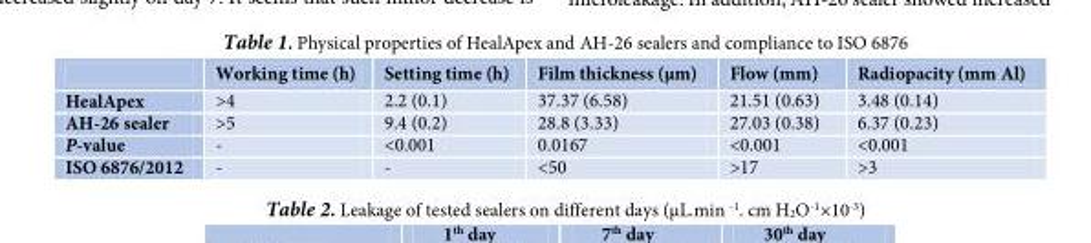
<table><thead><tr><td></td><td>Working time (h)</td><td>Setting time (h)</td><td>Film thickness (µm)</td><td>Flow (mm)</td><td>Radiopacity (mm Al)</td></tr></thead><tbody><tr><td>HealApex</td><td>&gt;4</td><td>2.2 (0.1)</td><td>37.37 (6.58)</td><td>21.51 (0.63)</td><td>3.48 (0.14)</td></tr><tr><td>AH-26 sealer</td><td>&gt;5</td><td>9.4 (0.2)</td><td>28.8 (3.33)</td><td>27.03 (0.38)</td><td>6.37 (0.23)</td></tr><tr><td>P-value</td><td>-</td><td>&lt;0.001</td><td>0.0167</td><td>&lt;0.001</td><td>&lt;0.001</td></tr><tr><td>ISO 6876/2012</td><td>-</td><td>-</td><td>&lt;50</td><td>&gt;17</td><td>&gt;3</td></tr></tbody></table>